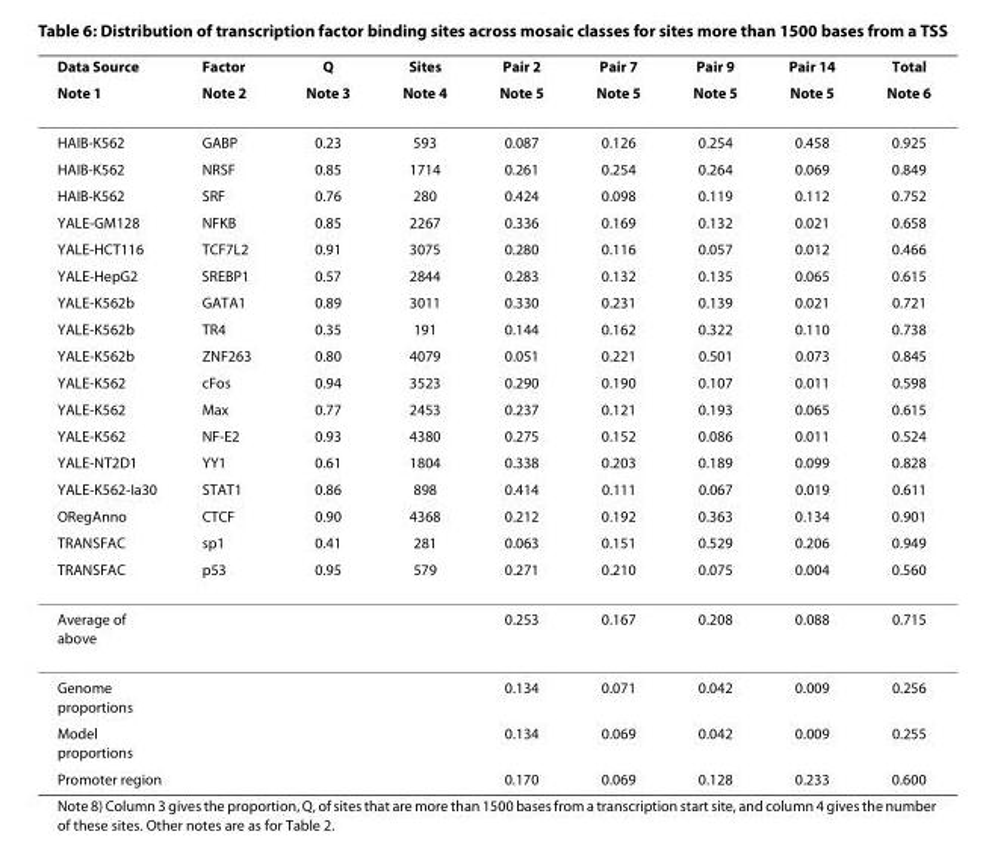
<table><thead><tr><td rowspan="2">Data Source Note 1</td><td rowspan="2">Factor Note 2</td><td rowspan="2">Q Note 3</td><td rowspan="2">Sites Note 4</td><td rowspan="2">Pair 2 Note 5</td><td rowspan="2">Pair 7 Note 5</td><td rowspan="2">Pair 9 Note 5</td><td rowspan="2">Pair 14 Note 5</td><td rowspan="2">Total Note 6</td></tr><tr></tr></thead><tbody><tr><td>HAIB-K562</td><td>GABP</td><td>0.23</td><td>593</td><td>0.087</td><td>0.126</td><td>0.254</td><td>0.458</td><td>0.925</td></tr><tr><td>HAIB-K562</td><td>NRSF</td><td>0.85</td><td>1714</td><td>0.261</td><td>0.254</td><td>0.264</td><td>0.069</td><td>0.849</td></tr><tr><td>HAIB-K562</td><td>SRF</td><td>0.76</td><td>280</td><td>0.424</td><td>0.098</td><td>0.119</td><td>0.112</td><td>0.752</td></tr><tr><td>YALE-GM128</td><td>NFKB</td><td>0.85</td><td>2267</td><td>0.336</td><td>0.169</td><td>0.132</td><td>0.021</td><td>0.658</td></tr><tr><td>YALE-HCT116</td><td>TCF7L2</td><td>0.91</td><td>3075</td><td>0.280</td><td>0.116</td><td>0.057</td><td>0.012</td><td>0.466</td></tr><tr><td>YALE-HepG2</td><td>SREBP1</td><td>0.57</td><td>2844</td><td>0.283</td><td>0.132</td><td>0.135</td><td>0.065</td><td>0.615</td></tr><tr><td>YALE-K562b</td><td>GATA1</td><td>0.89</td><td>3011</td><td>0.330</td><td>0.231</td><td>0.139</td><td>0.021</td><td>0.721</td></tr><tr><td>YALE-K562b</td><td>TR4</td><td>0.35</td><td>191</td><td>0.144</td><td>0.162</td><td>0.322</td><td>0.110</td><td>0.738</td></tr><tr><td>YALE-K562b</td><td>ZNF263</td><td>0.80</td><td>4079</td><td>0.051</td><td>0.221</td><td>0.501</td><td>0.073</td><td>0.845</td></tr><tr><td>YALE-K562</td><td>cFos</td><td>0.94</td><td>3523</td><td>0.290</td><td>0.190</td><td>0.107</td><td>0.011</td><td>0.598</td></tr><tr><td>YALE-K562</td><td>Max</td><td>0.77</td><td>2453</td><td>0.237</td><td>0.121</td><td>0.193</td><td>0.065</td><td>0.615</td></tr><tr><td>YALE-K562</td><td>NF-E2</td><td>0.93</td><td>4380</td><td>0.275</td><td>0.152</td><td>0.086</td><td>0.011</td><td>0.524</td></tr><tr><td>YALE-NT2D1</td><td>YY1</td><td>0.61</td><td>1804</td><td>0.338</td><td>0.203</td><td>0.189</td><td>0.099</td><td>0.828</td></tr><tr><td>YALE-K562-Ia30</td><td>STAT1</td><td>0.86</td><td>898</td><td>0.414</td><td>0.111</td><td>0.067</td><td>0.019</td><td>0.611</td></tr><tr><td>ORegAnno</td><td>CTCF</td><td>0.90</td><td>4368</td><td>0.212</td><td>0.192</td><td>0.363</td><td>0.134</td><td>0.901</td></tr><tr><td>TRANSFAC</td><td>sp1</td><td>0.41</td><td>281</td><td>0.063</td><td>0.151</td><td>0.529</td><td>0.206</td><td>0.949</td></tr><tr><td>TRANSFAC</td><td>p53</td><td>0.95</td><td>579</td><td>0.271</td><td>0.210</td><td>0.075</td><td>0.004</td><td>0.560</td></tr><tr><td>Average of above</td><td></td><td></td><td></td><td>0.253</td><td>0.167</td><td>0.208</td><td>0.088</td><td>0.715</td></tr><tr><td>Genome proportions</td><td></td><td></td><td></td><td>0.134</td><td>0.071</td><td>0.042</td><td>0.009</td><td>0.256</td></tr><tr><td>Model proportions</td><td></td><td></td><td></td><td>0.134</td><td>0.069</td><td>0.042</td><td>0.009</td><td>0.255</td></tr><tr><td>Promoter region</td><td></td><td></td><td></td><td>0.170</td><td>0.069</td><td>0.128</td><td>0.233</td><td>0.600</td></tr></tbody></table>